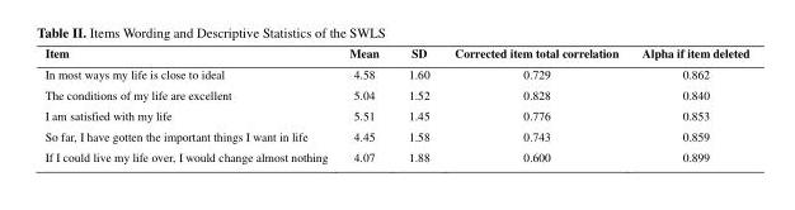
<table><thead><tr><td>Item</td><td>Mean</td><td>SD</td><td>Corrected item total correlation</td><td>Alpha if item deleted</td></tr></thead><tbody><tr><td>In most ways my life is close to ideal</td><td>4.58</td><td>1.60</td><td>0.729</td><td>0.862</td></tr><tr><td>The conditions of my life are excellent</td><td>5.04</td><td>1.52</td><td>0.828</td><td>0.840</td></tr><tr><td>I am satisfied with my life</td><td>5.51</td><td>1.45</td><td>0.776</td><td>0.853</td></tr><tr><td>So far, I have gotten the important things I want in life</td><td>4.45</td><td>1.58</td><td>0.743</td><td>0.859</td></tr><tr><td>If I could live my life over, I would change almost nothing</td><td>4.07</td><td>1.88</td><td>0.600</td><td>0.899</td></tr></tbody></table>